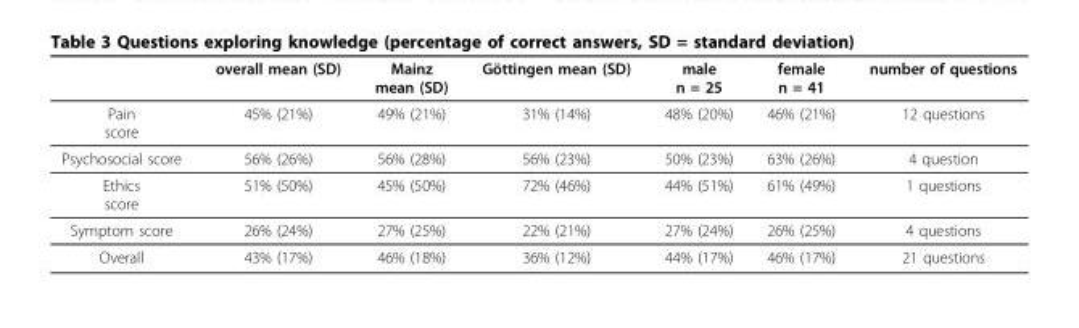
<table><thead><tr><td></td><td>overall mean (SD)</td><td>Mainz mean (SD)</td><td>Göttingen mean (SD)</td><td>male n = 25</td><td>female n = 41</td><td>number of questions</td></tr></thead><tbody><tr><td>Pain score</td><td>45% (21%)</td><td>49% (21%)</td><td>31% (14%)</td><td>48% (20%)</td><td>46% (21%)</td><td>12 questions</td></tr><tr><td>Psychosocial score</td><td>56% (26%)</td><td>56% (28%)</td><td>56% (23%)</td><td>50% (23%)</td><td>63% (26%)</td><td>4 question</td></tr><tr><td>Ethics score</td><td>51% (50%)</td><td>45% (50%)</td><td>72% (46%)</td><td>44% (51%)</td><td>61% (49%)</td><td>1 questions</td></tr><tr><td>Symptom score</td><td>26% (24%)</td><td>27% (25%)</td><td>22% (21%)</td><td>27% (24%)</td><td>26% (25%)</td><td>4 questions</td></tr><tr><td>Overall</td><td>43% (17%)</td><td>46% (18%)</td><td>36% (12%)</td><td>44% (17%)</td><td>46% (17%)</td><td>21 questions</td></tr></tbody></table>